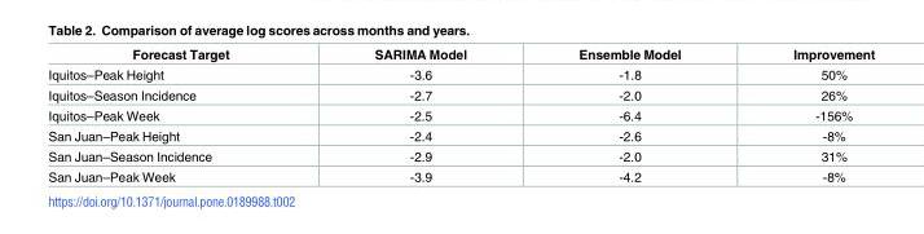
<table><thead><tr><td>Forecast Target</td><td>SARIMA Model</td><td>Ensemble Model</td><td>Improvement</td></tr></thead><tbody><tr><td>Iquitos–Peak Height</td><td>-3.6</td><td>-1.8</td><td>50%</td></tr><tr><td>Iquitos–Season Incidence</td><td>-2.7</td><td>-2.0</td><td>26%</td></tr><tr><td>Iquitos–Peak Week</td><td>-2.5</td><td>-6.4</td><td>-156%</td></tr><tr><td>San Juan–Peak Height</td><td>-2.4</td><td>-2.6</td><td>-8%</td></tr><tr><td>San Juan–Season Incidence</td><td>-2.9</td><td>-2.0</td><td>31%</td></tr><tr><td>San Juan–Peak Week</td><td>-3.9</td><td>-4.2</td><td>-8%</td></tr></tbody></table>